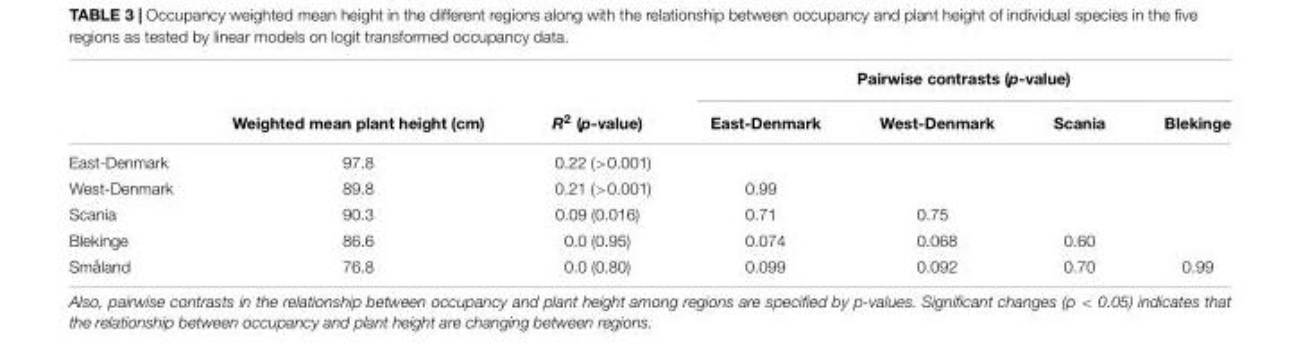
<table><thead><tr><td rowspan="2"></td><td rowspan="2">Weighted mean plant height (cm)</td><td rowspan="2">R<sup>2</sup> (p-value)</td><td colspan="4">Pairwise contrasts (p-value)</td></tr><tr><td>East-Denmark</td><td>West-Denmark</td><td>Scania</td><td>Blekinge</td></tr></thead><tbody><tr><td>East-Denmark</td><td>97.8</td><td>0.22 (&gt;0.001)</td><td></td><td></td><td></td><td></td></tr><tr><td>West-Denmark</td><td>89.8</td><td>0.21 (&gt;0.001)</td><td>0.99</td><td></td><td></td><td></td></tr><tr><td>Scania</td><td>90.3</td><td>0.09 (0.016)</td><td>0.71</td><td>0.75</td><td></td><td></td></tr><tr><td>Blekinge</td><td>86.6</td><td>0.0 (0.95)</td><td>0.074</td><td>0.068</td><td>0.60</td><td></td></tr><tr><td>Småland</td><td>76.8</td><td>0.0 (0.80)</td><td>0.099</td><td>0.092</td><td>0.70</td><td>0.99</td></tr></tbody></table>